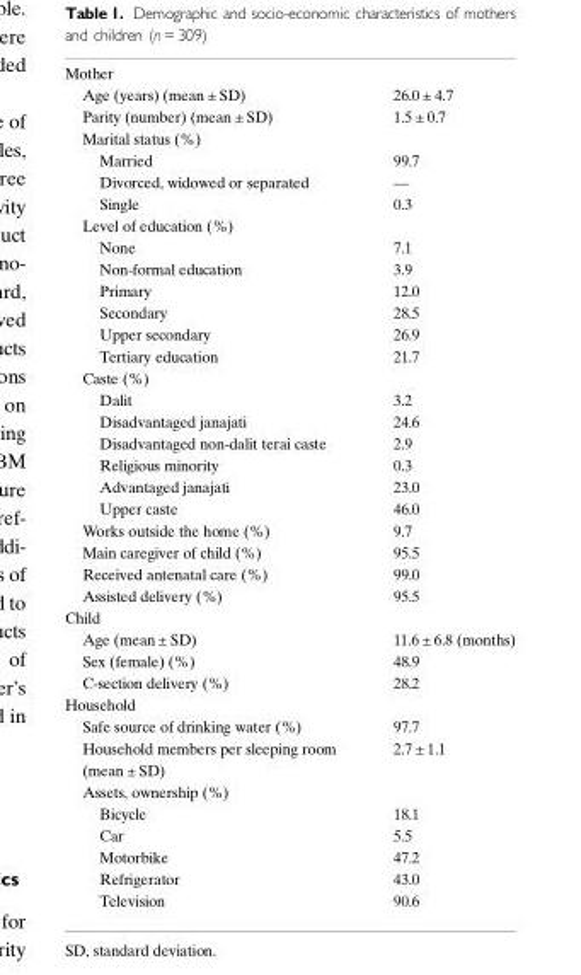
<table><tbody><tr><td colspan="2">Mother</td></tr><tr><td>Age (years) (mean ± SD)</td><td>26.0 ± 4.7</td></tr><tr><td>Parity (number) (mean ± SD)</td><td>1.5 ± 0.7</td></tr><tr><td colspan="2">Marital status (%)</td></tr><tr><td>Married</td><td>99.7</td></tr><tr><td>Divorced, widowed or separated</td><td>—</td></tr><tr><td>Single</td><td>0.3</td></tr><tr><td colspan="2">Level of education (%)</td></tr><tr><td>None</td><td>7.1</td></tr><tr><td>Non-formal education</td><td>3.9</td></tr><tr><td>Primary</td><td>12.0</td></tr><tr><td>Secondary</td><td>28.5</td></tr><tr><td>Upper secondary</td><td>26.9</td></tr><tr><td>Tertiary education</td><td>21.7</td></tr><tr><td colspan="2">Caste (%)</td></tr><tr><td>Dalit</td><td>3.2</td></tr><tr><td>Disadvantaged janajati</td><td>24.6</td></tr><tr><td>Disadvantaged non-dalit terai caste</td><td>2.9</td></tr><tr><td>Religious minority</td><td>0.3</td></tr><tr><td>Advantaged janajati</td><td>23.0</td></tr><tr><td>Upper caste</td><td>46.0</td></tr><tr><td>Works outside the home (%)</td><td>9.7</td></tr><tr><td>Main caregiver of child (%)</td><td>95.5</td></tr><tr><td>Received antenatal care (%)</td><td>99.0</td></tr><tr><td>Assisted delivery (%)</td><td>95.5</td></tr><tr><td colspan="2">Child</td></tr><tr><td>Age (mean ± SD)</td><td>11.6 ± 6.8 (months)</td></tr><tr><td>Sex (female) (%)</td><td>48.9</td></tr><tr><td>C-section delivery (%)</td><td>28.2</td></tr><tr><td colspan="2">Household</td></tr><tr><td>Safe source of drinking water (%)</td><td>97.7</td></tr><tr><td>Household members per sleeping room (mean ± SD)</td><td>2.7 ± 1.1</td></tr><tr><td colspan="2">Assets, ownership (%)</td></tr><tr><td>Bicycle</td><td>18.1</td></tr><tr><td>Car</td><td>5.5</td></tr><tr><td>Motorbike</td><td>47.2</td></tr><tr><td>Refrigerator</td><td>43.0</td></tr><tr><td>Television</td><td>90.6</td></tr></tbody></table>